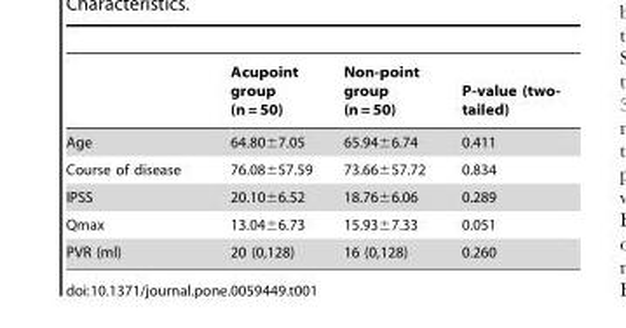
<table><thead><tr><td></td><td>Acupoint group (n = 50)</td><td>Non-point group (n = 50)</td><td>P-value (two- tailed)</td></tr></thead><tbody><tr><td>Age</td><td>64.80±7.05</td><td>65.94±6.74</td><td>0.411</td></tr><tr><td>Course of disease</td><td>76.08±57.59</td><td>73.66±57.72</td><td>0.834</td></tr><tr><td>IPSS</td><td>20.10±6.52</td><td>18.76±6.06</td><td>0.289</td></tr><tr><td>Qmax</td><td>13.04±6.73</td><td>15.93±7.33</td><td>0.051</td></tr><tr><td>PVR (ml)</td><td>20 (0,128)</td><td>16 (0,128)</td><td>0.260</td></tr></tbody></table>